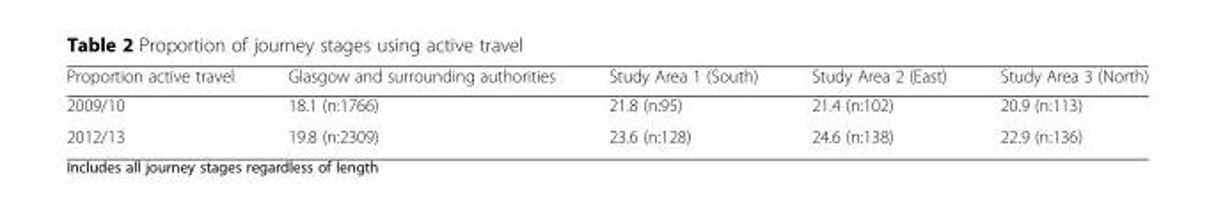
<table><thead><tr><td>Proportion active travel</td><td>Glasgow and surrounding authorities</td><td>Study Area 1 (South)</td><td>Study Area 2 (East)</td><td>Study Area 3 (North)</td></tr></thead><tbody><tr><td>2009/10</td><td>18.1 (n:1766)</td><td>21.8 (n:95)</td><td>21.4 (n:102)</td><td>20.9 (n:113)</td></tr><tr><td>2012/13</td><td>19.8 (n:2309)</td><td>23.6 (n:128)</td><td>24.6 (n:138)</td><td>22.9 (n:136)</td></tr></tbody></table>